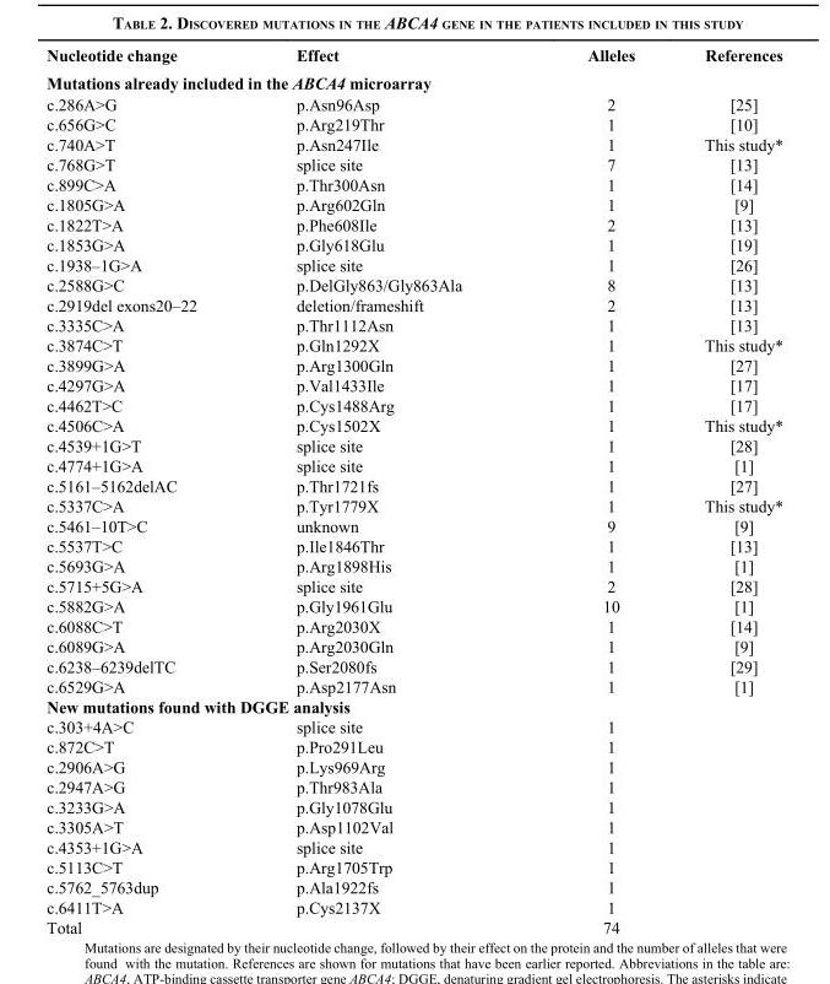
<table><thead><tr><td>Nucleotide change</td><td>Effect</td><td>Alleles</td><td>References</td></tr></thead><tbody><tr><td colspan="4">Mutations already included in the ABCA4 microarray</td></tr><tr><td>c.286A&gt;G</td><td>p.Asn96Asp</td><td>2</td><td>[25]</td></tr><tr><td>c.656G&gt;C</td><td>p.Arg219Thr</td><td>1</td><td>[10]</td></tr><tr><td>c.740A&gt;T</td><td>p.Asn247Ile</td><td>1</td><td>This study*</td></tr><tr><td>c.768G&gt;T</td><td>splice site</td><td>7</td><td>[13]</td></tr><tr><td>c.899C&gt;A</td><td>p.Thr300Asn</td><td>1</td><td>[14]</td></tr><tr><td>c.1805G&gt;A</td><td>p.Arg602Gln</td><td>1</td><td>[9]</td></tr><tr><td>c.1822T&gt;A</td><td>p.Phe608Ile</td><td>2</td><td>[13]</td></tr><tr><td>c.1853G&gt;A</td><td>p.Gly618Glu</td><td>1</td><td>[19]</td></tr><tr><td>c.1938–1G&gt;A</td><td>splice site</td><td>1</td><td>[26]</td></tr><tr><td>c.2588G&gt;C</td><td>p.DelGly863/Gly863Ala</td><td>8</td><td>[13]</td></tr><tr><td>c.2919del exons20–22</td><td>deletion/frameshift</td><td>2</td><td>[13]</td></tr><tr><td>c.3335C&gt;A</td><td>p.Thr1112Asn</td><td>1</td><td>[13]</td></tr><tr><td>c.3874C&gt;T</td><td>p.Gln1292X</td><td>1</td><td>This study*</td></tr><tr><td>c.3899G&gt;A</td><td>p.Arg1300Gln</td><td>1</td><td>[27]</td></tr><tr><td>c.4297G&gt;A</td><td>p.Val1433Ile</td><td>1</td><td>[17]</td></tr><tr><td>c.4462T&gt;C</td><td>p.Cys1488Arg</td><td>1</td><td>[17]</td></tr><tr><td>c.4506C&gt;A</td><td>p.Cys1502X</td><td>1</td><td>This study*</td></tr><tr><td>c.4539+1G&gt;T</td><td>splice site</td><td>1</td><td>[28]</td></tr><tr><td>c.4774+1G&gt;A</td><td>splice site</td><td>1</td><td>[1]</td></tr><tr><td>c.5161–5162delAC</td><td>p.Thr1721fs</td><td>1</td><td>[27]</td></tr><tr><td>c.5337C&gt;A</td><td>p.Tyr1779X</td><td>1</td><td>This study*</td></tr><tr><td>c.5461–10T&gt;C</td><td>unknown</td><td>9</td><td>[9]</td></tr><tr><td>c.5537T&gt;C</td><td>p.Ile1846Thr</td><td>1</td><td>[13]</td></tr><tr><td>c.5693G&gt;A</td><td>p.Arg1898His</td><td>1</td><td>[1]</td></tr><tr><td>c.5715+5G&gt;A</td><td>splice site</td><td>2</td><td>[28]</td></tr><tr><td>c.5882G&gt;A</td><td>p.Gly1961Glu</td><td>10</td><td>[1]</td></tr><tr><td>c.6088C&gt;T</td><td>p.Arg2030X</td><td>1</td><td>[14]</td></tr><tr><td>c.6089G&gt;A</td><td>p.Arg2030Gln</td><td>1</td><td>[9]</td></tr><tr><td>c.6238–6239delTC</td><td>p.Ser2080fs</td><td>1</td><td>[29]</td></tr><tr><td>c.6529G&gt;A</td><td>p.Asp2177Asn</td><td>1</td><td>[1]</td></tr><tr><td colspan="4">New mutations found with DGGE analysis</td></tr><tr><td>c.303+4A&gt;C</td><td>splice site</td><td>1</td><td></td></tr><tr><td>c.872C&gt;T</td><td>p.Pro291Leu</td><td>1</td><td></td></tr><tr><td>c.2906A&gt;G</td><td>p.Lys969Arg</td><td>1</td><td></td></tr><tr><td>c.2947A&gt;G</td><td>p.Thr983Ala</td><td>1</td><td></td></tr><tr><td>c.3233G&gt;A</td><td>p.Gly1078Glu</td><td>1</td><td></td></tr><tr><td>c.3305A&gt;T</td><td>p.Asp1102Val</td><td>1</td><td></td></tr><tr><td>c.4353+1G&gt;A</td><td>splice site</td><td>1</td><td></td></tr><tr><td>c.5113C&gt;T</td><td>p.Arg1705Trp</td><td>1</td><td></td></tr><tr><td>c.5762_5763dup</td><td>p.Ala1922fs</td><td>1</td><td></td></tr><tr><td>c.6411T&gt;A</td><td>p.Cys2137X</td><td>1</td><td></td></tr><tr><td>Total</td><td></td><td>74</td><td></td></tr></tbody></table>